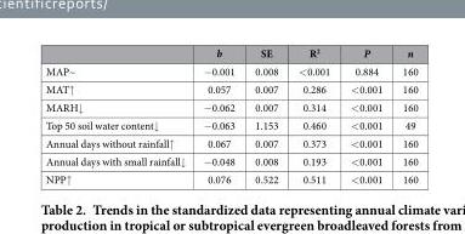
<table><thead><tr><td></td><td>b</td><td>SE</td><td>R<sup>2</sup></td><td>P</td><td>n</td></tr></thead><tbody><tr><td>MAP~</td><td>− 0.001</td><td>0.008</td><td>&lt; 0.001</td><td>0.884</td><td>160</td></tr><tr><td>MAT↑</td><td>0.057</td><td>0.007</td><td>0.286</td><td>&lt; 0.001</td><td>160</td></tr><tr><td>MARH↓</td><td>− 0.062</td><td>0.007</td><td>0.314</td><td>&lt; 0.001</td><td>160</td></tr><tr><td>Top 50 soil water content↓</td><td>− 0.063</td><td>1.153</td><td>0.460</td><td>&lt; 0.001</td><td>49</td></tr><tr><td>Annual days without rainfall↑</td><td>0.067</td><td>0.007</td><td>0.373</td><td>&lt; 0.001</td><td>160</td></tr><tr><td>Annual days with small rainfall↓</td><td>− 0.048</td><td>0.008</td><td>0.193</td><td>&lt; 0.001</td><td>160</td></tr><tr><td>NPP↑</td><td>0.076</td><td>0.522</td><td>0.511</td><td>&lt; 0.001</td><td>160</td></tr></tbody></table>